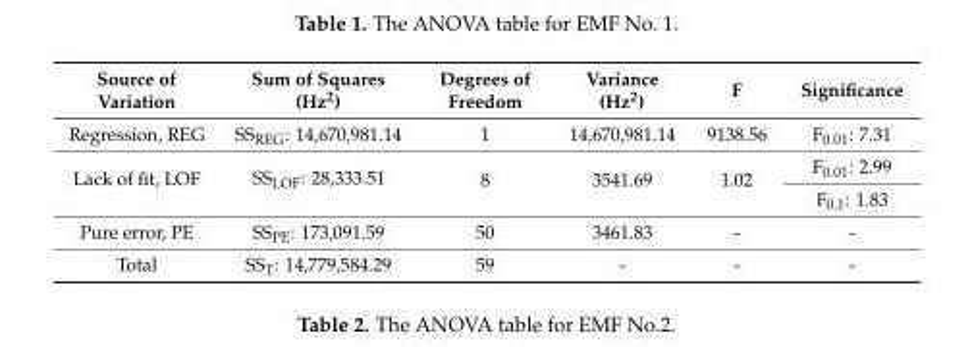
<table><thead><tr><td>Source of Variation</td><td>Sum of Squares (Hz<sup>2</sup>)</td><td>Degrees of Freedom</td><td>Variance (Hz<sup>2</sup>)</td><td>F</td><td>Significance</td></tr></thead><tbody><tr><td>Regression, REG</td><td>SS<sub>REG</sub>: 14,670,981.14</td><td>1</td><td>14,670,981.14</td><td>9138.56</td><td>F<sub>0.01</sub>: 7.31</td></tr><tr><td rowspan="2">Lack of fit, LOF</td><td rowspan="2">SS<sub>LOF</sub>: 28,333.51</td><td rowspan="2">8</td><td rowspan="2">3541.69</td><td rowspan="2">1.02</td><td>F<sub>0.01</sub>: 2.99</td></tr><tr><td>F<sub>0.1</sub>: 1.83</td></tr><tr><td>Pure error, PE</td><td>SS<sub>PE</sub>: 173,091.59</td><td>50</td><td>3461.83</td><td>-</td><td>-</td></tr><tr><td>Total</td><td>SS<sub>T</sub>: 14,779,584.29</td><td>59</td><td>-</td><td>-</td><td>-</td></tr></tbody></table>